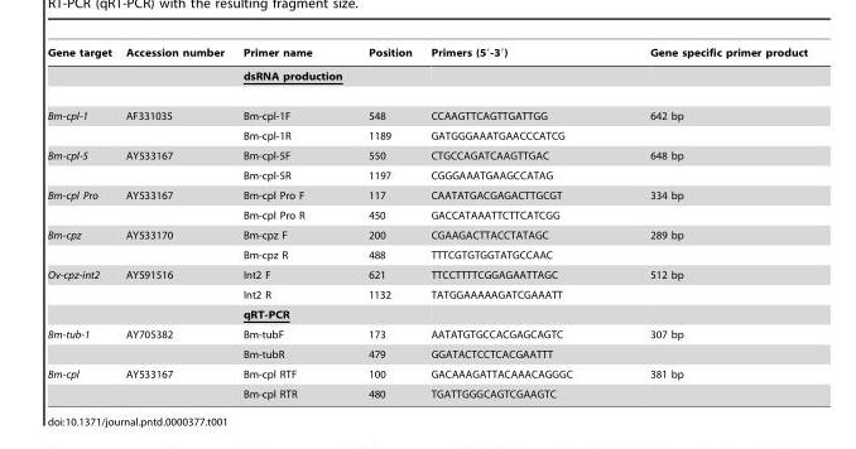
<table><thead><tr><td>Gene target</td><td>Accession number</td><td>Primer name</td><td>Position</td><td>Primers (5′-3′)</td><td>Gene specific primer product</td></tr></thead><tbody><tr><td></td><td></td><td>dsRNA production</td><td></td><td></td><td></td></tr><tr><td rowspan="2">Bm-cpl-1</td><td>AF331035</td><td>Bm-cpl-1F</td><td>548</td><td>CCAAGTTCAGTTGATTGG</td><td>642 bp</td></tr><tr><td></td><td>Bm-cpl-1R</td><td>1189</td><td>GATGGGAAATGAACCCATCG</td><td></td></tr><tr><td rowspan="2">Bm-cpl-5</td><td>AY533167</td><td>Bm-cpl-5F</td><td>550</td><td>CTGCCAGATCAAGTTGAC</td><td>648 bp</td></tr><tr><td></td><td>Bm-cpl-5R</td><td>1197</td><td>CGGGAAATGAAGCCATAG</td><td></td></tr><tr><td rowspan="2">Bm-cpl Pro</td><td>AY533167</td><td>Bm-cpl Pro F</td><td>117</td><td>CAATATGACGAGACTTGCGT</td><td>334 bp</td></tr><tr><td></td><td>Bm-cpl Pro R</td><td>450</td><td>GACCATAAATTCTTCATCGG</td><td></td></tr><tr><td rowspan="2">Bm-cpz</td><td>AY533170</td><td>Bm-cpz F</td><td>200</td><td>CGAAGACTTACCTATAGC</td><td>289 bp</td></tr><tr><td></td><td>Bm-cpz R</td><td>488</td><td>TTTCGTGTGGTATGCCAAC</td><td></td></tr><tr><td rowspan="3">Ov-cpz-int2</td><td>AY591516</td><td>Int2 F</td><td>621</td><td>TTCCTTTTCGGAGAATTAGC</td><td>512 bp</td></tr><tr><td></td><td>Int2 R</td><td>1132</td><td>TATGGAAAAAGATCGAAATT</td><td></td></tr><tr><td></td><td>qRT-PCR</td><td></td><td></td><td></td></tr><tr><td rowspan="2">Bm-tub-1</td><td>AY705382</td><td>Bm-tubF</td><td>173</td><td>AATATGTGCCACGAGCAGTC</td><td>307 bp</td></tr><tr><td></td><td>Bm-tubR</td><td>479</td><td>GGATACTCCTCACGAATTT</td><td></td></tr><tr><td rowspan="2">Bm-cpl</td><td>AY533167</td><td>Bm-cpl RTF</td><td>100</td><td>GACAAAGATTACAAACAGGGC</td><td>381 bp</td></tr><tr><td></td><td>Bm-cpl RTR</td><td>480</td><td>TGATTGGGCAGTCGAAGTC</td><td></td></tr></tbody></table>